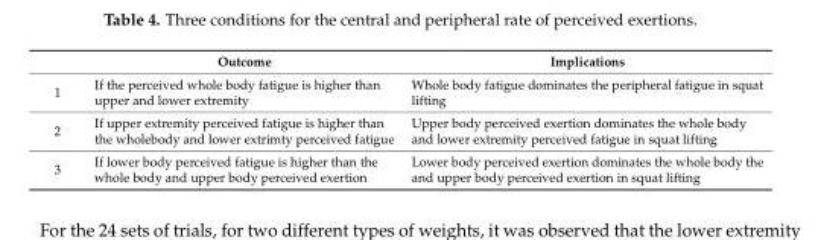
<table><thead><tr><td></td><td>Outcome</td><td>Implications</td></tr></thead><tbody><tr><td>1</td><td>If the perceived whole body fatigue is higher than upper and lower extremity</td><td>Whole body fatigue dominates the peripheral fatigue in squat lifting</td></tr><tr><td>2</td><td>If upper extremity perceived fatigue is higher than the wholebody and lower extrimty perceived fatigue</td><td>Upper body perceived exertion dominates the whole body and lower extremity perceived fatigue in squat lifting</td></tr><tr><td>3</td><td>If lower body perceived fatigue is higher than the whole body and upper body perceived exertion</td><td>Lower body perceived exertion dominates the whole body the and upper body perceived exertion in squat lifting</td></tr></tbody></table>